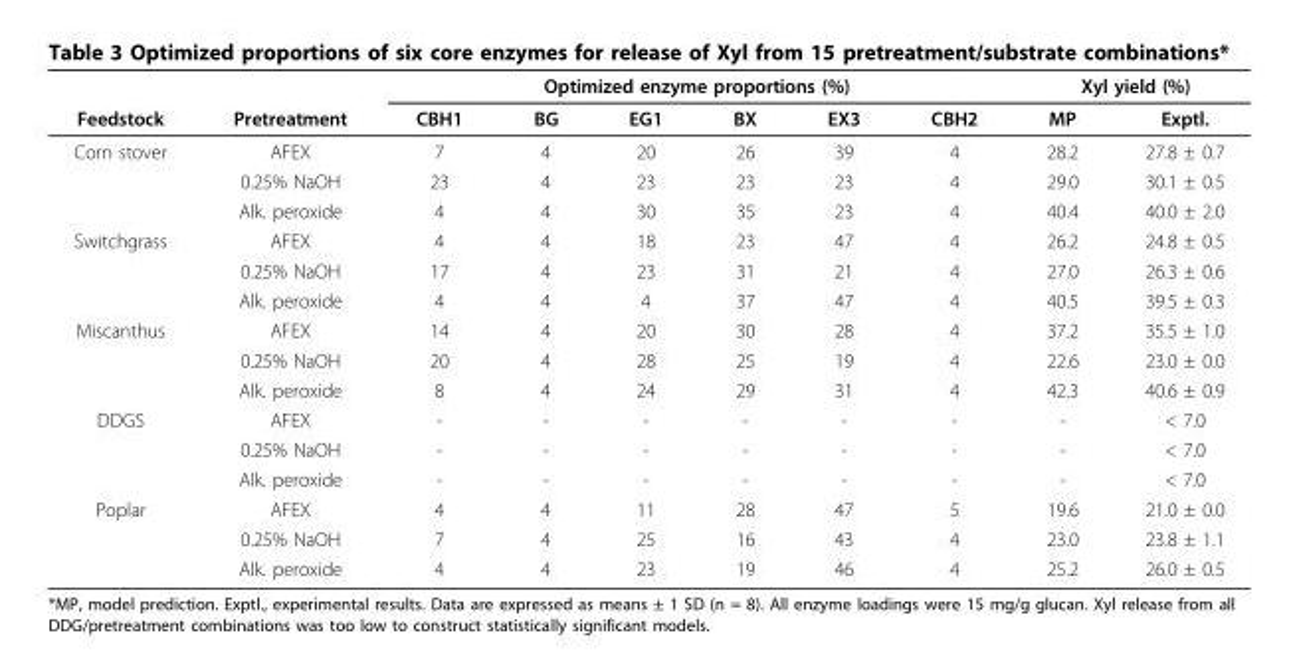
<table><thead><tr><td rowspan="2">Feedstock</td><td rowspan="2">Pretreatment</td><td colspan="6">Optimized enzyme proportions (%)</td><td colspan="2">Xyl yield (%)</td></tr><tr><td>CBH1</td><td>BG</td><td>EG1</td><td>BX</td><td>EX3</td><td>CBH2</td><td>MP</td><td>Exptl.</td></tr></thead><tbody><tr><td rowspan="3">Corn stover</td><td>AFEX</td><td>7</td><td>4</td><td>20</td><td>26</td><td>39</td><td>4</td><td>28.2</td><td>27.8 ± 0.7</td></tr><tr><td>0.25% NaOH</td><td>23</td><td>4</td><td>23</td><td>23</td><td>23</td><td>4</td><td>29.0</td><td>30.1 ± 0.5</td></tr><tr><td>Alk. peroxide</td><td>4</td><td>4</td><td>30</td><td>35</td><td>23</td><td>4</td><td>40.4</td><td>40.0 ± 2.0</td></tr><tr><td rowspan="3">Switchgrass</td><td>AFEX</td><td>4</td><td>4</td><td>18</td><td>23</td><td>47</td><td>4</td><td>26.2</td><td>24.8 ± 0.5</td></tr><tr><td>0.25% NaOH</td><td>17</td><td>4</td><td>23</td><td>31</td><td>21</td><td>4</td><td>27.0</td><td>26.3 ± 0.6</td></tr><tr><td>Alk. peroxide</td><td>4</td><td>4</td><td>4</td><td>37</td><td>47</td><td>4</td><td>40.5</td><td>39.5 ± 0.3</td></tr><tr><td rowspan="3">Miscanthus</td><td>AFEX</td><td>14</td><td>4</td><td>20</td><td>30</td><td>28</td><td>4</td><td>37.2</td><td>35.5 ± 1.0</td></tr><tr><td>0.25% NaOH</td><td>20</td><td>4</td><td>28</td><td>25</td><td>19</td><td>4</td><td>22.6</td><td>23.0 ± 0.0</td></tr><tr><td>Alk. peroxide</td><td>8</td><td>4</td><td>24</td><td>29</td><td>31</td><td>4</td><td>42.3</td><td>40.6 ± 0.9</td></tr><tr><td rowspan="3">DDGS</td><td>AFEX</td><td>-</td><td>-</td><td>-</td><td>-</td><td>-</td><td>-</td><td>-</td><td>&lt; 7.0</td></tr><tr><td>0.25% NaOH</td><td>-</td><td>-</td><td>-</td><td>-</td><td>-</td><td>-</td><td>-</td><td>&lt; 7.0</td></tr><tr><td>Alk. peroxide</td><td>-</td><td>-</td><td>-</td><td>-</td><td>-</td><td>-</td><td>-</td><td>&lt; 7.0</td></tr><tr><td rowspan="3">Poplar</td><td>AFEX</td><td>4</td><td>4</td><td>11</td><td>28</td><td>47</td><td>5</td><td>19.6</td><td>21.0 ± 0.0</td></tr><tr><td>0.25% NaOH</td><td>7</td><td>4</td><td>25</td><td>16</td><td>43</td><td>4</td><td>23.0</td><td>23.8 ± 1.1</td></tr><tr><td>Alk. peroxide</td><td>4</td><td>4</td><td>23</td><td>19</td><td>46</td><td>4</td><td>25.2</td><td>26.0 ± 0.5</td></tr></tbody></table>